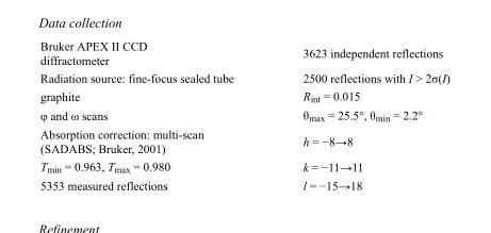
<table><tbody><tr><td>Bruker APEX II CCD diffractometer</td><td>3623 independent reflections</td></tr><tr><td>Radiation source: fine-focus sealed tube</td><td>2500 reflections with I &gt; 2σ(I)</td></tr><tr><td>graphite</td><td>R<sub>int</sub> = 0.015</td></tr><tr><td>φ and ω scans</td><td>θ<sub>max</sub> = 25.5°, θ<sub>min</sub> = 2.2°</td></tr><tr><td>Absorption correction: multi-scan (SADABS; Bruker, 2001)</td><td>h = −8→8</td></tr><tr><td>T<sub>min</sub> = 0.963, T<sub>max</sub> = 0.980</td><td>k = −11→11</td></tr><tr><td>5353 measured reflections</td><td>l = −15→18</td></tr></tbody></table>